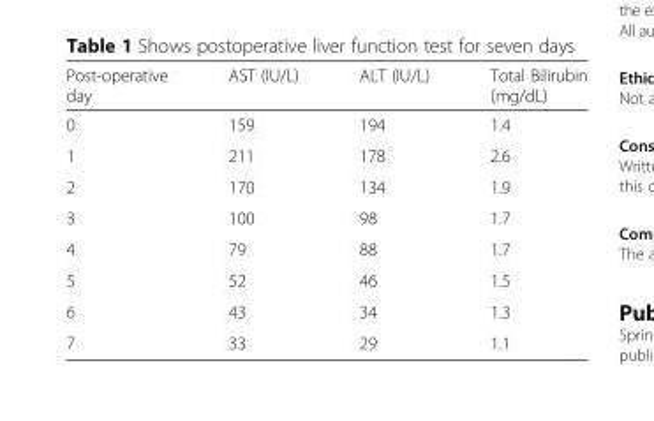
<table><thead><tr><td>Post-operative day</td><td>AST (IU/L)</td><td>ALT (IU/L)</td><td>Total Bilirubin (mg/dL)</td></tr></thead><tbody><tr><td>0</td><td>159</td><td>194</td><td>1.4</td></tr><tr><td>1</td><td>211</td><td>178</td><td>2.6</td></tr><tr><td>2</td><td>170</td><td>134</td><td>1.9</td></tr><tr><td>3</td><td>100</td><td>98</td><td>1.7</td></tr><tr><td>4</td><td>79</td><td>88</td><td>1.7</td></tr><tr><td>5</td><td>52</td><td>46</td><td>1.5</td></tr><tr><td>6</td><td>43</td><td>34</td><td>1.3</td></tr><tr><td>7</td><td>33</td><td>29</td><td>1.1</td></tr></tbody></table>